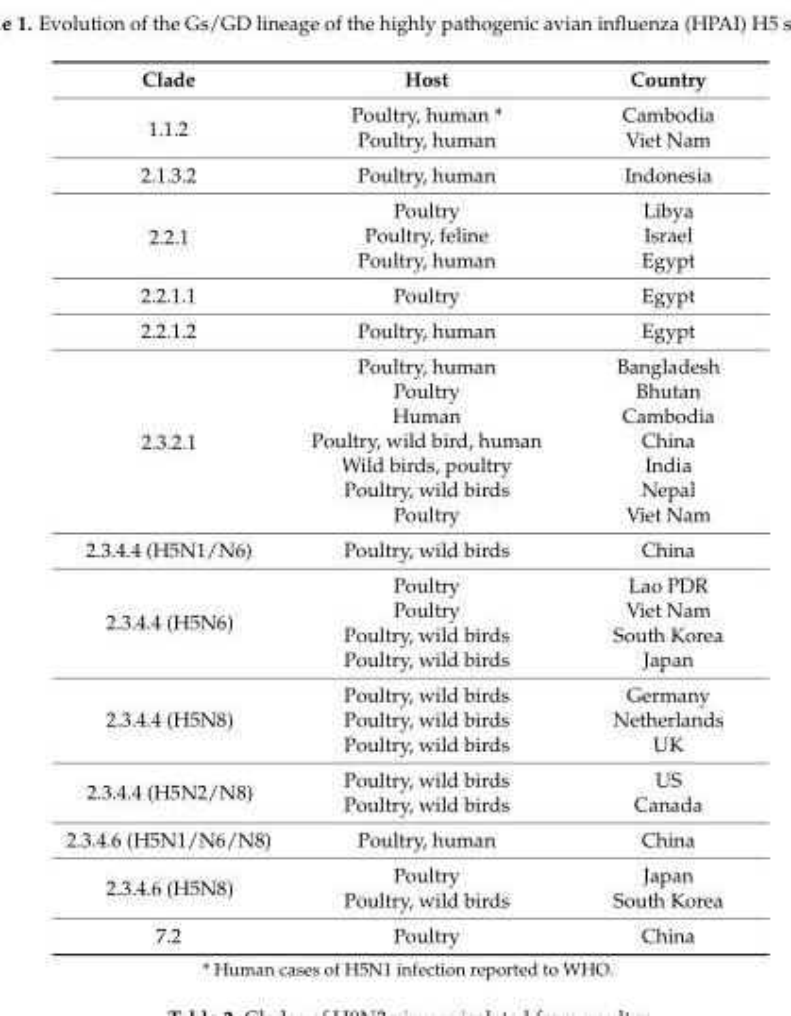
<table><thead><tr><td>Clade</td><td>Host</td><td>Country</td></tr></thead><tbody><tr><td rowspan="2">1.1.2</td><td>Poultry, human *</td><td>Cambodia</td></tr><tr><td>Poultry, human</td><td>Viet Nam</td></tr><tr><td>2.1.3.2</td><td>Poultry, human</td><td>Indonesia</td></tr><tr><td rowspan="3">2.2.1</td><td>Poultry</td><td>Libya</td></tr><tr><td>Poultry, feline</td><td>Israel</td></tr><tr><td>Poultry, human</td><td>Egypt</td></tr><tr><td>2.2.1.1</td><td>Poultry</td><td>Egypt</td></tr><tr><td>2.2.1.2</td><td>Poultry, human</td><td>Egypt</td></tr><tr><td rowspan="7">2.3.2.1</td><td>Poultry, human</td><td>Bangladesh</td></tr><tr><td>Poultry</td><td>Bhutan</td></tr><tr><td>Human</td><td>Cambodia</td></tr><tr><td>Poultry, wild bird, human</td><td>China</td></tr><tr><td>Wild birds, poultry</td><td>India</td></tr><tr><td>Poultry, wild birds</td><td>Nepal</td></tr><tr><td>Poultry</td><td>Viet Nam</td></tr><tr><td>2.3.4.4 (H5N1/N6)</td><td>Poultry, wild birds</td><td>China</td></tr><tr><td rowspan="4">2.3.4.4 (H5N6)</td><td>Poultry</td><td>Lao PDR</td></tr><tr><td>Poultry</td><td>Viet Nam</td></tr><tr><td>Poultry, wild birds</td><td>South Korea</td></tr><tr><td>Poultry, wild birds</td><td>Japan</td></tr><tr><td rowspan="3">2.3.4.4 (H5N8)</td><td>Poultry, wild birds</td><td>Germany</td></tr><tr><td>Poultry, wild birds</td><td>Netherlands</td></tr><tr><td>Poultry, wild birds</td><td>UK</td></tr><tr><td rowspan="2">2.3.4.4 (H5N2/N8)</td><td>Poultry, wild birds</td><td>US</td></tr><tr><td>Poultry, wild birds</td><td>Canada</td></tr><tr><td>2.3.4.6 (H5N1/N6/N8)</td><td>Poultry, human</td><td>China</td></tr><tr><td rowspan="2">2.3.4.6 (H5N8)</td><td>Poultry</td><td>Japan</td></tr><tr><td>Poultry, wild birds</td><td>South Korea</td></tr><tr><td>7.2</td><td>Poultry</td><td>China</td></tr></tbody></table>